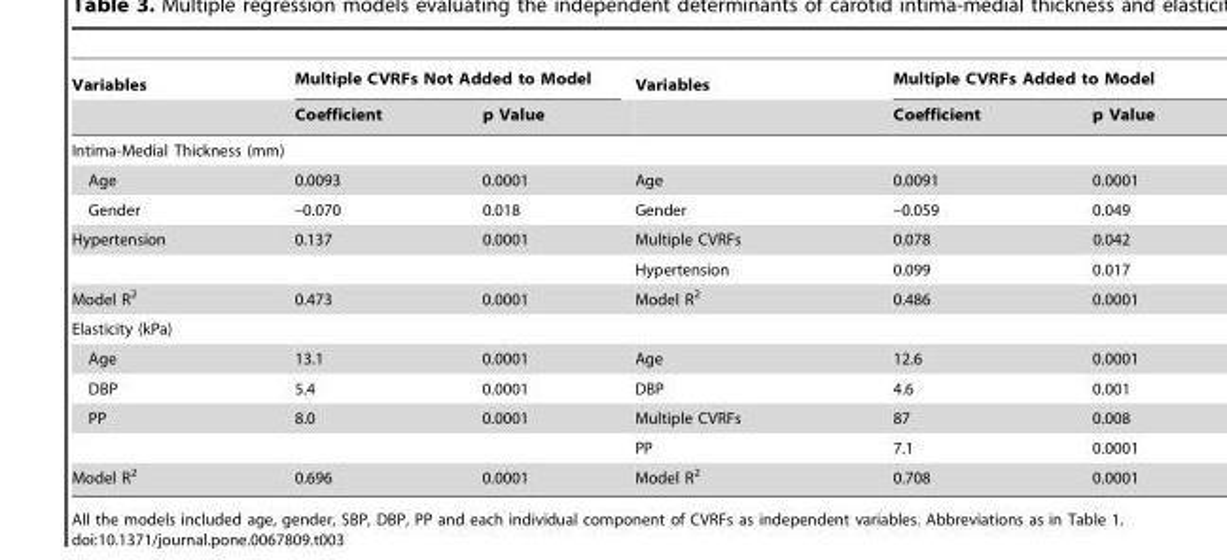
<table><thead><tr><td rowspan="2">Variables</td><td colspan="2">Multiple CVRFs Not Added to Model</td><td rowspan="2">Variables</td><td colspan="2">Multiple CVRFs Added to Model</td></tr><tr><td>Coefficient</td><td>p Value</td><td>Coefficient</td><td>p Value</td></tr></thead><tbody><tr><td colspan="6">Intima-Medial Thickness (mm)</td></tr><tr><td>Age</td><td>0.0093</td><td>0.0001</td><td>Age</td><td>0.0091</td><td>0.0001</td></tr><tr><td>Gender</td><td>–0.070</td><td>0.018</td><td>Gender</td><td>–0.059</td><td>0.049</td></tr><tr><td rowspan="2">Hypertension</td><td>0.137</td><td>0.0001</td><td>Multiple CVRFs</td><td>0.078</td><td>0.042</td></tr><tr><td></td><td></td><td>Hypertension</td><td>0.099</td><td>0.017</td></tr><tr><td>Model R<sup>2</sup></td><td>0.473</td><td>0.0001</td><td>Model R<sup>2</sup></td><td>0.486</td><td>0.0001</td></tr><tr><td colspan="6">Elasticity (kPa)</td></tr><tr><td>Age</td><td>13.1</td><td>0.0001</td><td>Age</td><td>12.6</td><td>0.0001</td></tr><tr><td>DBP</td><td>5.4</td><td>0.0001</td><td>DBP</td><td>4.6</td><td>0.001</td></tr><tr><td rowspan="2">PP</td><td>8.0</td><td>0.0001</td><td>Multiple CVRFs</td><td>87</td><td>0.008</td></tr><tr><td></td><td></td><td>PP</td><td>7.1</td><td>0.0001</td></tr><tr><td>Model R<sup>2</sup></td><td>0.696</td><td>0.0001</td><td>Model R<sup>2</sup></td><td>0.708</td><td>0.0001</td></tr></tbody></table>